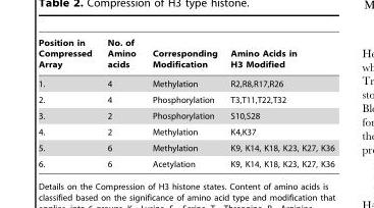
<table><thead><tr><td>Position in Compressed Array</td><td>No. of Amino acids</td><td>Corresponding Modification</td><td>Amino Acids in H3 Modified</td></tr></thead><tbody><tr><td>1.</td><td>4</td><td>Methylation</td><td>R2,R8,R17,R26</td></tr><tr><td>2.</td><td>4</td><td>Phosphorylation</td><td>T3,T11,T22,T32</td></tr><tr><td>3.</td><td>2</td><td>Phosphorylation</td><td>S10,S28</td></tr><tr><td>4.</td><td>2</td><td>Methylation</td><td>K4,K37</td></tr><tr><td>5.</td><td>6</td><td>Methylation</td><td>K9, K14, K18, K23, K27, K36</td></tr><tr><td>6.</td><td>6</td><td>Acetylation</td><td>K9, K14, K18, K23, K27, K36</td></tr></tbody></table>